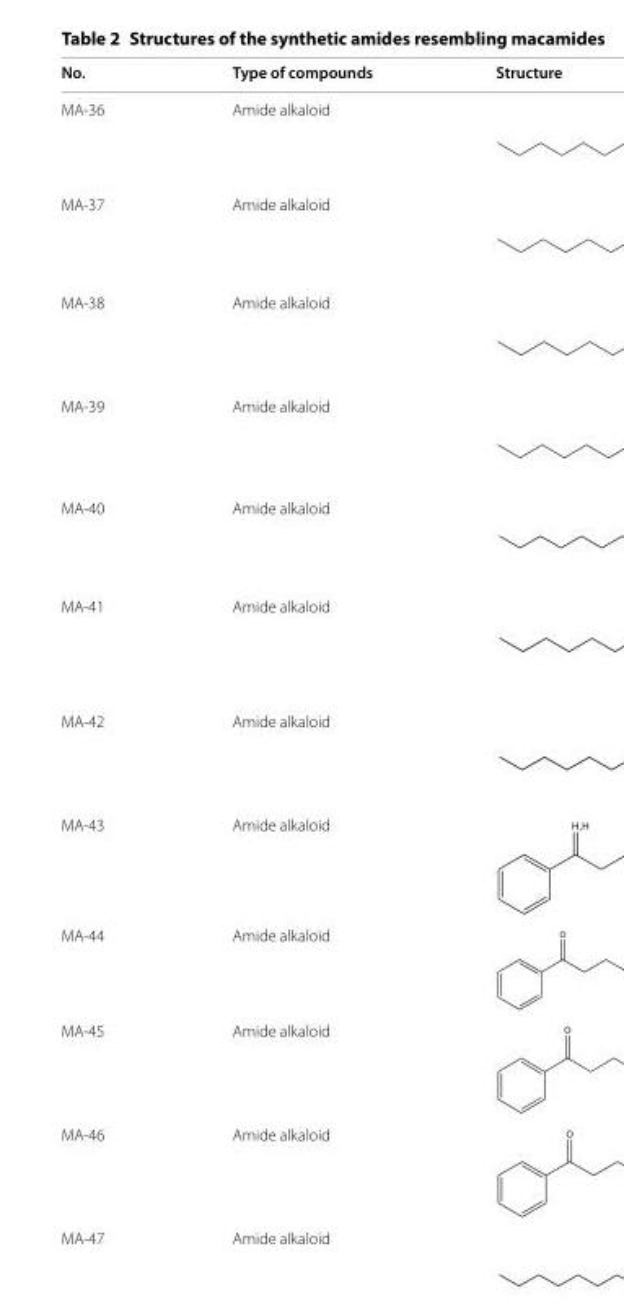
<table><thead><tr><td>No.</td><td>Type of compounds</td><td>Structure</td></tr></thead><tbody><tr><td>MA‑36</td><td>Amide alkaloid</td><td></td></tr><tr><td>MA‑37</td><td>Amide alkaloid</td><td></td></tr><tr><td>MA‑38</td><td>Amide alkaloid</td><td></td></tr><tr><td>MA‑39</td><td>Amide alkaloid</td><td></td></tr><tr><td>MA‑40</td><td>Amide alkaloid</td><td></td></tr><tr><td>MA‑41</td><td>Amide alkaloid</td><td></td></tr><tr><td>MA‑42</td><td>Amide alkaloid</td><td></td></tr><tr><td>MA‑43</td><td>Amide alkaloid</td><td></td></tr><tr><td>MA‑44</td><td>Amide alkaloid</td><td></td></tr><tr><td>MA‑45</td><td>Amide alkaloid</td><td></td></tr><tr><td>MA‑46</td><td>Amide alkaloid</td><td></td></tr><tr><td>MA‑47</td><td>Amide alkaloid</td><td></td></tr></tbody></table>